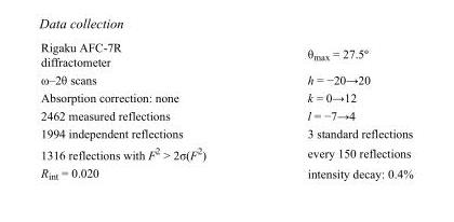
<table><tbody><tr><td>Rigaku AFC-7R diffractometer</td><td>θ<sub>max</sub> = 27.5º</td></tr><tr><td>ω–2θ scans</td><td>h = −20→20</td></tr><tr><td>Absorption correction: none</td><td>k = 0→12</td></tr><tr><td>2462 measured reflections</td><td>l = −7→4</td></tr><tr><td>1994 independent reflections</td><td>3 standard reflections</td></tr><tr><td>1316 reflections with F<sup>2</sup> &gt; 2σ(F<sup>2</sup>)</td><td>every 150 reflections</td></tr><tr><td>R<sub>int</sub> = 0.020</td><td>intensity decay: 0.4%</td></tr></tbody></table>